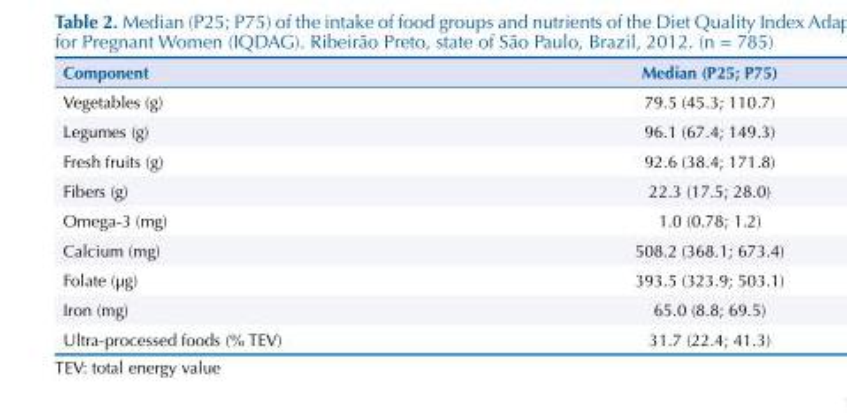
<table><thead><tr><td>Component</td><td>Median (P25; P75)</td></tr></thead><tbody><tr><td>Vegetables (g)</td><td>79.5 (45.3; 110.7)</td></tr><tr><td>Legumes (g)</td><td>96.1 (67.4; 149.3)</td></tr><tr><td>Fresh fruits (g)</td><td>92.6 (38.4; 171.8)</td></tr><tr><td>Fibers (g)</td><td>22.3 (17.5; 28.0)</td></tr><tr><td>Omega-3 (mg)</td><td>1.0 (0.78; 1.2)</td></tr><tr><td>Calcium (mg)</td><td>508.2 (368.1; 673.4)</td></tr><tr><td>Folate (µg)</td><td>393.5 (323.9; 503.1)</td></tr><tr><td>Iron (mg)</td><td>65.0 (8.8; 69.5)</td></tr><tr><td>Ultra-processed foods (% TEV)</td><td>31.7 (22.4; 41.3)</td></tr></tbody></table>